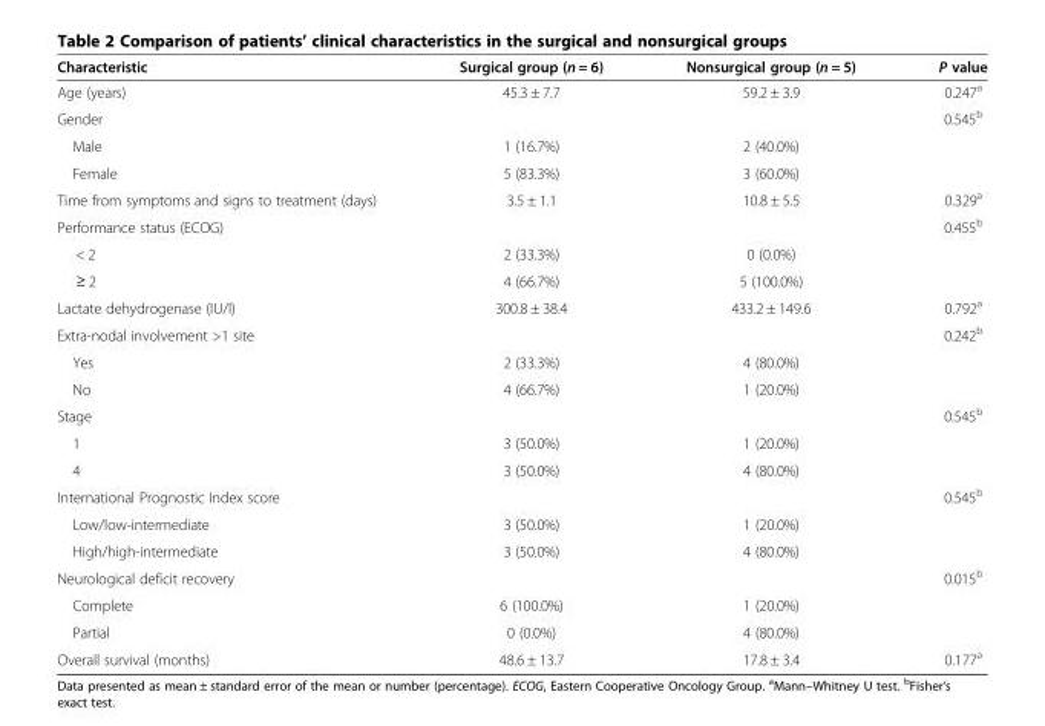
<table><thead><tr><td>Characteristic</td><td>Surgical group (n = 6)</td><td>Nonsurgical group (n = 5)</td><td>P value</td></tr></thead><tbody><tr><td>Age (years)</td><td>45.3 ± 7.7</td><td>59.2 ± 3.9</td><td>0.247<sup>a</sup></td></tr><tr><td>Gender</td><td></td><td></td><td>0.545<sup>b</sup></td></tr><tr><td>Male</td><td>1 (16.7%)</td><td>2 (40.0%)</td><td></td></tr><tr><td>Female</td><td>5 (83.3%)</td><td>3 (60.0%)</td><td></td></tr><tr><td>Time from symptoms and signs to treatment (days)</td><td>3.5 ± 1.1</td><td>10.8 ± 5.5</td><td>0.329<sup>a</sup></td></tr><tr><td>Performance status (ECOG)</td><td></td><td></td><td>0.455<sup>b</sup></td></tr><tr><td>&lt; 2</td><td>2 (33.3%)</td><td>0 (0.0%)</td><td></td></tr><tr><td>≥ 2</td><td>4 (66.7%)</td><td>5 (100.0%)</td><td></td></tr><tr><td>Lactate dehydrogenase (IU/l)</td><td>300.8 ± 38.4</td><td>433.2 ± 149.6</td><td>0.792<sup>a</sup></td></tr><tr><td>Extra-nodal involvement &gt;1 site</td><td></td><td></td><td>0.242<sup>b</sup></td></tr><tr><td>Yes</td><td>2 (33.3%)</td><td>4 (80.0%)</td><td></td></tr><tr><td>No</td><td>4 (66.7%)</td><td>1 (20.0%)</td><td></td></tr><tr><td>Stage</td><td></td><td></td><td>0.545<sup>b</sup></td></tr><tr><td>1</td><td>3 (50.0%)</td><td>1 (20.0%)</td><td></td></tr><tr><td>4</td><td>3 (50.0%)</td><td>4 (80.0%)</td><td></td></tr><tr><td>International Prognostic Index score</td><td></td><td></td><td>0.545<sup>b</sup></td></tr><tr><td>Low/low-intermediate</td><td>3 (50.0%)</td><td>1 (20.0%)</td><td></td></tr><tr><td>High/high-intermediate</td><td>3 (50.0%)</td><td>4 (80.0%)</td><td></td></tr><tr><td>Neurological deficit recovery</td><td></td><td></td><td>0.015<sup>b</sup></td></tr><tr><td>Complete</td><td>6 (100.0%)</td><td>1 (20.0%)</td><td></td></tr><tr><td>Partial</td><td>0 (0.0%)</td><td>4 (80.0%)</td><td></td></tr><tr><td>Overall survival (months)</td><td>48.6 ± 13.7</td><td>17.8 ± 3.4</td><td>0.177<sup>a</sup></td></tr></tbody></table>